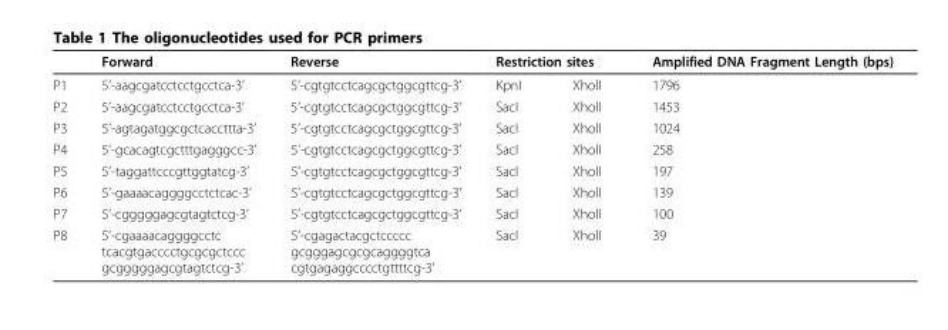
<table><thead><tr><td rowspan="2">P1</td><td rowspan="2">Forward 5’-aagcgatcctcctgcctca-3’</td><td rowspan="2">Reverse 5’-cgtgtcctcagcgctggcgttcg-3’</td><td colspan="2">Restriction sites</td><td rowspan="2">Amplified DNA Fragment Length (bps) 1796</td></tr><tr><td>KpnI</td><td>XholI</td></tr></thead><tbody><tr><td>P2</td><td>5’-aagcgatcctcctgcctca-3’</td><td>5’-cgtgtcctcagcgctggcgttcg-3’</td><td>SacI</td><td>XholI</td><td>1453</td></tr><tr><td>P3</td><td>5’-agtagatggcgctcaccttta-3’</td><td>5’-cgtgtcctcagcgctggcgttcg-3’</td><td>SacI</td><td>XholI</td><td>1024</td></tr><tr><td>P4</td><td>5’-gcacagtcgctttgagggcc-3’</td><td>5’-cgtgtcctcagcgctggcgttcg-3’</td><td>SacI</td><td>XholI</td><td>258</td></tr><tr><td>P5</td><td>5’-taggattcccgttggtatcg-3’</td><td>5’-cgtgtcctcagcgctggcgttcg-3’</td><td>SacI</td><td>XholI</td><td>197</td></tr><tr><td>P6</td><td>5’-gaaaacaggggcctctcac-3’</td><td>5’-cgtgtcctcagcgctggcgttcg-3’</td><td>SacI</td><td>XholI</td><td>139</td></tr><tr><td>P7</td><td>5’-cgggggagcgtagtctcg-3’</td><td>5’-cgtgtcctcagcgctggcgttcg-3’</td><td>SacI</td><td>XholI</td><td>100</td></tr><tr><td>P8</td><td>5’-cgaaaacaggggcctc tcacgtgacccctgcgcgctccc gcgggggagcgtagtctcg-3’</td><td>5’-cgagactacgctccccc gcgggagcgcgcaggggtca cgtgagaggcccctgttttcg-3’</td><td>SacI</td><td>XholI</td><td>39</td></tr></tbody></table>